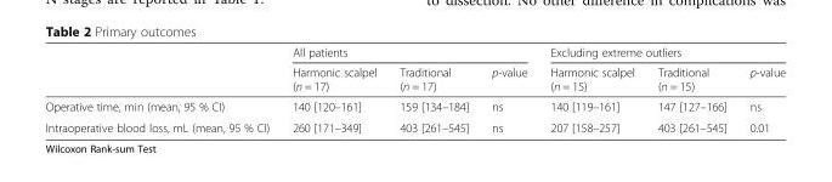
<table><thead><tr><td rowspan="2"></td><td colspan="3">All patients</td><td colspan="3">Excluding extreme outliers</td></tr><tr><td>Harmonic scalpel (n = 17)</td><td>Traditional (n = 17)</td><td>p-value</td><td>Harmonic scalpel (n = 15)</td><td>Traditional (n = 15)</td><td>p-value</td></tr></thead><tbody><tr><td>Operative time, min (mean, 95 % CI)</td><td>140 [120–161]</td><td>159 [134–184]</td><td>ns</td><td>140 [119–161]</td><td>147 [127–166]</td><td>ns</td></tr><tr><td>Intraoperative blood loss, mL (mean, 95 % CI)</td><td>260 [171–349]</td><td>403 [261–545]</td><td>ns</td><td>207 [158–257]</td><td>403 [261–545]</td><td>0.01</td></tr></tbody></table>